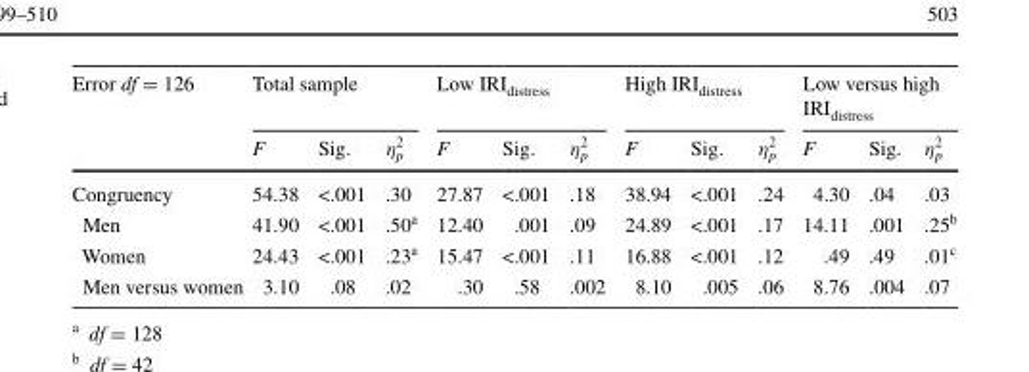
<table><thead><tr><td rowspan="2">Error df = 126</td><td colspan="3">Total sample</td><td colspan="3">Low IRI<sub>distress</sub></td><td colspan="3">High IRI<sub>distress</sub></td><td colspan="3">Low versus high IRI<sub>distress</sub></td></tr><tr><td>F</td><td>Sig.</td><td>η<sub>p</sub> <sup>2</sup></td><td>F</td><td>Sig.</td><td>η<sub>p</sub> <sup>2</sup></td><td>F</td><td>Sig.</td><td>η<sub>p</sub> <sup>2</sup></td><td>F</td><td>Sig.</td><td>η<sub>p</sub> <sup>2</sup></td></tr></thead><tbody><tr><td>Congruency</td><td>54.38</td><td>&lt;.001</td><td>.30</td><td>27.87</td><td>&lt;.001</td><td>.18</td><td>38.94</td><td>&lt;.001</td><td>.24</td><td>4.30</td><td>.04</td><td>.03</td></tr><tr><td>Men</td><td>41.90</td><td>&lt;.001</td><td>.50<sup>a</sup></td><td>12.40</td><td>.001</td><td>.09</td><td>24.89</td><td>&lt;.001</td><td>.17</td><td>14.11</td><td>.001</td><td>.25<sup>b</sup></td></tr><tr><td>Women</td><td>24.43</td><td>&lt;.001</td><td>.23<sup>a</sup></td><td>15.47</td><td>&lt;.001</td><td>.11</td><td>16.88</td><td>&lt;.001</td><td>.12</td><td>.49</td><td>.49</td><td>.01<sup>c</sup></td></tr><tr><td>Men versus women</td><td>3.10</td><td>.08</td><td>.02</td><td>.30</td><td>.58</td><td>.002</td><td>8.10</td><td>.005</td><td>.06</td><td>8.76</td><td>.004</td><td>.07</td></tr></tbody></table>